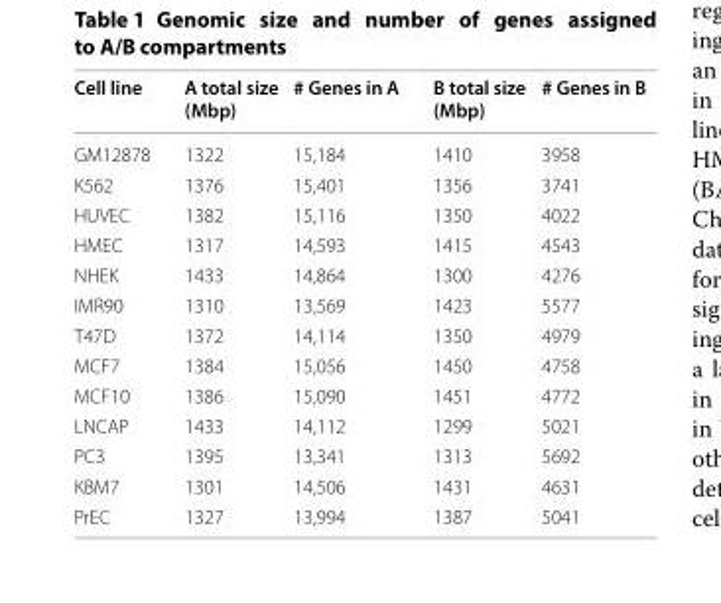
<table><thead><tr><td>Cell line</td><td>A total size (Mbp)</td><td># Genes in A</td><td>B total size (Mbp)</td><td># Genes in B</td></tr></thead><tbody><tr><td>GM12878</td><td>1322</td><td>15,184</td><td>1410</td><td>3958</td></tr><tr><td>K562</td><td>1376</td><td>15,401</td><td>1356</td><td>3741</td></tr><tr><td>HUVEC</td><td>1382</td><td>15,116</td><td>1350</td><td>4022</td></tr><tr><td>HMEC</td><td>1317</td><td>14,593</td><td>1415</td><td>4543</td></tr><tr><td>NHEK</td><td>1433</td><td>14,864</td><td>1300</td><td>4276</td></tr><tr><td>IMR90</td><td>1310</td><td>13,569</td><td>1423</td><td>5577</td></tr><tr><td>T47D</td><td>1372</td><td>14,114</td><td>1350</td><td>4979</td></tr><tr><td>MCF7</td><td>1384</td><td>15,056</td><td>1450</td><td>4758</td></tr><tr><td>MCF10</td><td>1386</td><td>15,090</td><td>1451</td><td>4772</td></tr><tr><td>LNCAP</td><td>1433</td><td>14,112</td><td>1299</td><td>5021</td></tr><tr><td>PC3</td><td>1395</td><td>13,341</td><td>1313</td><td>5692</td></tr><tr><td>KBM7</td><td>1301</td><td>14,506</td><td>1431</td><td>4631</td></tr><tr><td>PrEC</td><td>1327</td><td>13,994</td><td>1387</td><td>5041</td></tr></tbody></table>